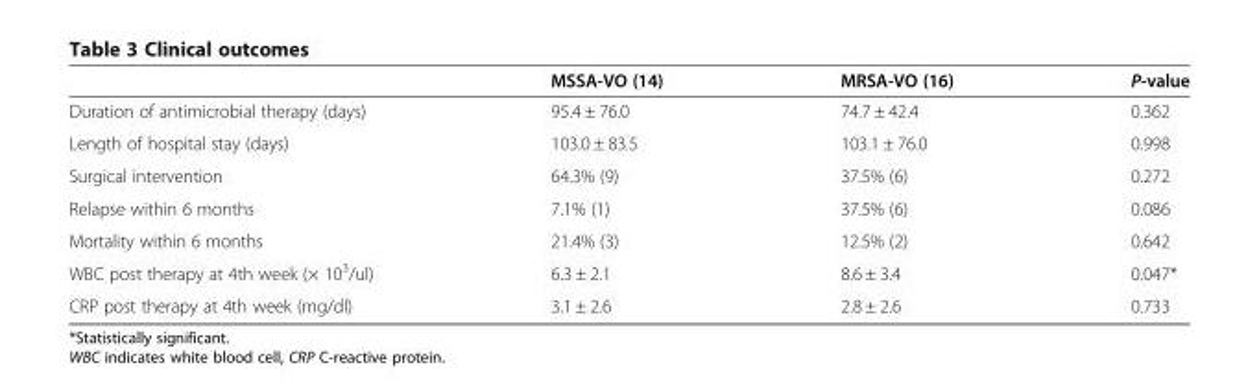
<table><thead><tr><td></td><td>MSSA-VO (14)</td><td>MRSA-VO (16)</td><td>P-value</td></tr></thead><tbody><tr><td>Duration of antimicrobial therapy (days)</td><td>95.4 ± 76.0</td><td>74.7 ± 42.4</td><td>0.362</td></tr><tr><td>Length of hospital stay (days)</td><td>103.0 ± 83.5</td><td>103.1 ± 76.0</td><td>0.998</td></tr><tr><td>Surgical intervention</td><td>64.3% (9)</td><td>37.5% (6)</td><td>0.272</td></tr><tr><td>Relapse within 6 months</td><td>7.1% (1)</td><td>37.5% (6)</td><td>0.086</td></tr><tr><td>Mortality within 6 months</td><td>21.4% (3)</td><td>12.5% (2)</td><td>0.642</td></tr><tr><td>WBC post therapy at 4th week (× 10<sup>3</sup>/ul)</td><td>6.3 ± 2.1</td><td>8.6 ± 3.4</td><td>0.047*</td></tr><tr><td>CRP post therapy at 4th week (mg/dl)</td><td>3.1 ± 2.6</td><td>2.8 ± 2.6</td><td>0.733</td></tr></tbody></table>